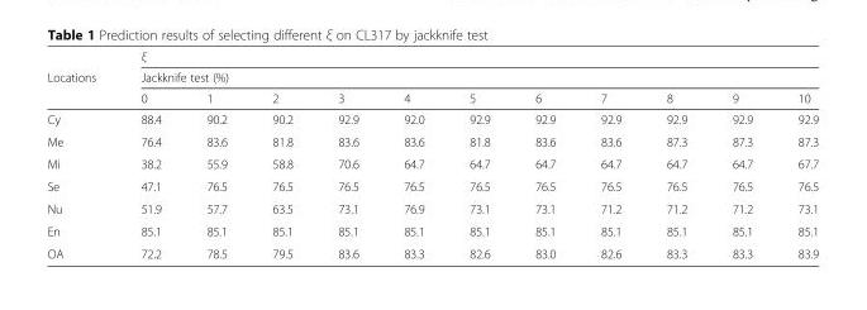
<table><thead><tr><td rowspan="3">Locations</td><td rowspan="2" colspan="11">ξ Jackknife test (%)</td></tr><tr></tr><tr><td>0</td><td>1</td><td>2</td><td>3</td><td>4</td><td>5</td><td>6</td><td>7</td><td>8</td><td>9</td><td>10</td></tr></thead><tbody><tr><td>Cy</td><td>88.4</td><td>90.2</td><td>90.2</td><td>92.9</td><td>92.0</td><td>92.9</td><td>92.9</td><td>92.9</td><td>92.9</td><td>92.9</td><td>92.9</td></tr><tr><td>Me</td><td>76.4</td><td>83.6</td><td>81.8</td><td>83.6</td><td>83.6</td><td>81.8</td><td>83.6</td><td>83.6</td><td>87.3</td><td>87.3</td><td>87.3</td></tr><tr><td>Mi</td><td>38.2</td><td>55.9</td><td>58.8</td><td>70.6</td><td>64.7</td><td>64.7</td><td>64.7</td><td>64.7</td><td>64.7</td><td>64.7</td><td>67.7</td></tr><tr><td>Se</td><td>47.1</td><td>76.5</td><td>76.5</td><td>76.5</td><td>76.5</td><td>76.5</td><td>76.5</td><td>76.5</td><td>76.5</td><td>76.5</td><td>76.5</td></tr><tr><td>Nu</td><td>51.9</td><td>57.7</td><td>63.5</td><td>73.1</td><td>76.9</td><td>73.1</td><td>73.1</td><td>71.2</td><td>71.2</td><td>71.2</td><td>73.1</td></tr><tr><td>En</td><td>85.1</td><td>85.1</td><td>85.1</td><td>85.1</td><td>85.1</td><td>85.1</td><td>85.1</td><td>85.1</td><td>85.1</td><td>85.1</td><td>85.1</td></tr><tr><td>OA</td><td>72.2</td><td>78.5</td><td>79.5</td><td>83.6</td><td>83.3</td><td>82.6</td><td>83.0</td><td>82.6</td><td>83.3</td><td>83.3</td><td>83.9</td></tr></tbody></table>